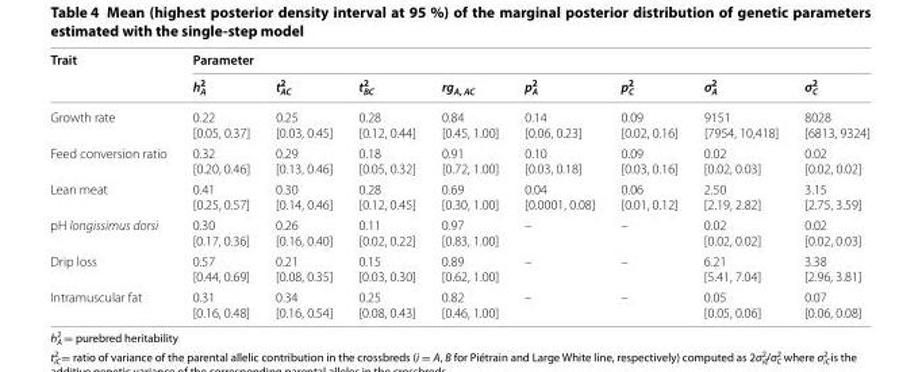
<table><thead><tr><td rowspan="2">Trait</td><td colspan="8">Parameter</td></tr><tr><td>h<sub>A</sub> <sup>2</sup></td><td>t<sub>AC</sub> <sup>2</sup></td><td>t<sub>BC</sub> <sup>2</sup></td><td>rg<sub>A, AC</sub></td><td>p<sub>A</sub> <sup>2</sup></td><td>p<sub>C</sub> <sup>2</sup></td><td>σ<sub>A</sub> <sup>2</sup></td><td>σ<sub>C</sub> <sup>2</sup></td></tr></thead><tbody><tr><td>Growth rate</td><td>0.22 [0.05, 0.37]</td><td>0.25 [0.03, 0.45]</td><td>0.28 [0.12, 0.44]</td><td>0.84 [0.45, 1.00]</td><td>0.14 [0.06, 0.23]</td><td>0.09 [0.02, 0.16]</td><td>9151 [7954, 10,418]</td><td>8028 [6813, 9324]</td></tr><tr><td>Feed conversion ratio</td><td>0.32 [0.20, 0.46]</td><td>0.29 [0.13, 0.46]</td><td>0.18 [0.05, 0.32]</td><td>0.91 [0.72, 1.00]</td><td>0.10 [0.03, 0.18]</td><td>0.09 [0.03, 0.16]</td><td>0.02 [0.02, 0.03]</td><td>0.02 [0.02, 0.02]</td></tr><tr><td>Lean meat</td><td>0.41 [0.25, 0.57]</td><td>0.30 [0.14, 0.46]</td><td>0.28 [0.12, 0.45]</td><td>0.69 [0.30, 1.00]</td><td>0.04 [0.0001, 0.08]</td><td>0.06 [0.01, 0.12]</td><td>2.50 [2.19, 2.82]</td><td>3.15 [2.75, 3.59]</td></tr><tr><td>pH longissimus dorsi</td><td>0.30 [0.17, 0.36]</td><td>0.26 [0.16, 0.40]</td><td>0.11 [0.02, 0.22]</td><td>0.97 [0.83, 1.00]</td><td>–</td><td>–</td><td>0.02 [0.02, 0.02]</td><td>0.02 [0.02, 0.03]</td></tr><tr><td>Drip loss</td><td>0.57 [0.44, 0.69]</td><td>0.21 [0.08, 0.35]</td><td>0.15 [0.03, 0.30]</td><td>0.89 [0.62, 1.00]</td><td>–</td><td>–</td><td>6.21 [5.41, 7.04]</td><td>3.38 [2.96, 3.81]</td></tr><tr><td>Intramuscular fat</td><td>0.31 [0.16, 0.48]</td><td>0.34 [0.16, 0.54]</td><td>0.25 [0.08, 0.43]</td><td>0.82 [0.46, 1.00]</td><td>–</td><td>–</td><td>0.05 [0.05, 0.06]</td><td>0.07 [0.06, 0.08]</td></tr></tbody></table>